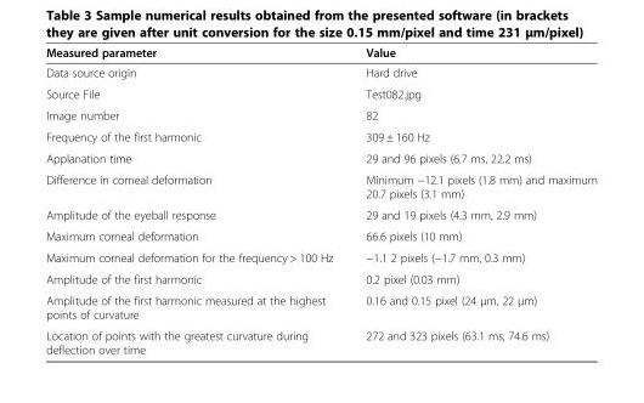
<table><thead><tr><td>Measured parameter</td><td>Value</td></tr></thead><tbody><tr><td>Data source origin</td><td>Hard drive</td></tr><tr><td>Source File</td><td>Test082.jpg</td></tr><tr><td>Image number</td><td>82</td></tr><tr><td>Frequency of the first harmonic</td><td>309 ± 160 Hz</td></tr><tr><td>Applanation time</td><td>29 and 96 pixels (6.7 ms, 22.2 ms)</td></tr><tr><td>Difference in corneal deformation</td><td>Minimum −12.1 pixels (1.8 mm) and maximum 20.7 pixels (3.1 mm)</td></tr><tr><td>Amplitude of the eyeball response</td><td>29 and 19 pixels (4.3 mm, 2.9 mm)</td></tr><tr><td>Maximum corneal deformation</td><td>66.6 pixels (10 mm)</td></tr><tr><td>Maximum corneal deformation for the frequency &gt; 100 Hz</td><td>−1.1 2 pixels (−1.7 mm, 0.3 mm)</td></tr><tr><td>Amplitude of the first harmonic</td><td>0.2 pixel (0.03 mm)</td></tr><tr><td>Amplitude of the first harmonic measured at the highest points of curvature</td><td>0.16 and 0.15 pixel (24 μm, 22 μm)</td></tr><tr><td>Location of points with the greatest curvature during deflection over time</td><td>272 and 323 pixels (63.1 ms, 74.6 ms)</td></tr></tbody></table>